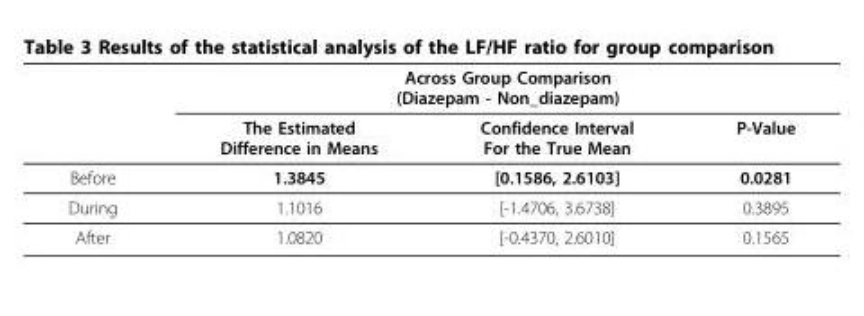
<table><thead><tr><td rowspan="2"></td><td colspan="3">Across Group Comparison (Diazepam - Non_diazepam)</td></tr><tr><td>The Estimated Difference in Means</td><td>Confidence Interval For the True Mean</td><td>P-Value</td></tr></thead><tbody><tr><td>Before</td><td>1.3845</td><td>[0.1586, 2.6103]</td><td>0.0281</td></tr><tr><td>During</td><td>1.1016</td><td>[-1.4706, 3.6738]</td><td>0.3895</td></tr><tr><td>After</td><td>1.0820</td><td>[-0.4370, 2.6010]</td><td>0.1565</td></tr></tbody></table>